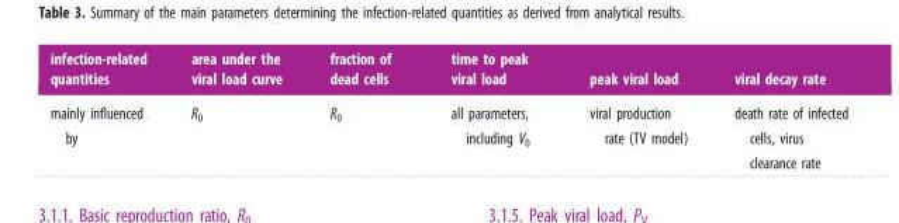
<table><thead><tr><td>infection-related quantities</td><td>area under the viral load curve</td><td>fraction of dead cells</td><td>time to peak viral load</td><td>peak viral load</td><td>viral decay rate</td></tr></thead><tbody><tr><td>mainly influenced by</td><td>R<sub>0</sub></td><td>R<sub>0</sub></td><td>all parameters, including V<sub>0</sub></td><td>viral production rate (TV model)</td><td>death rate of infected cells, virus clearance rate</td></tr></tbody></table>